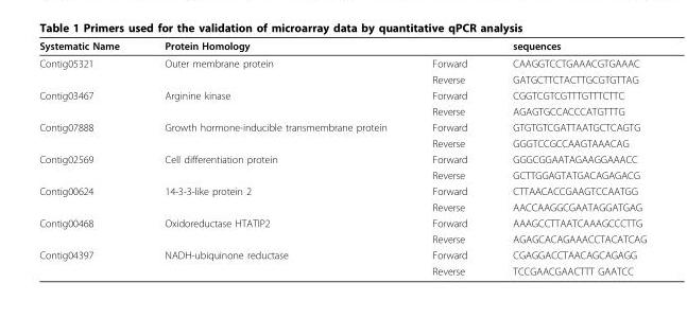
<table><thead><tr><td>Systematic Name</td><td>Protein Homology</td><td></td><td>sequences</td></tr></thead><tbody><tr><td rowspan="2">Contig05321</td><td>Outer membrane protein</td><td>Forward</td><td>CAAGGTCCTGAAACGTGAAAC</td></tr><tr><td></td><td>Reverse</td><td>GATGCTTCTACTTGCGTGTTAG</td></tr><tr><td rowspan="2">Contig03467</td><td>Arginine kinase</td><td>Forward</td><td>CGGTCGTCGTTTGTTTCTTC</td></tr><tr><td></td><td>Reverse</td><td>AGAGTGCCACCCATGTTTG</td></tr><tr><td rowspan="2">Contig07888</td><td>Growth hormone-inducible transmembrane protein</td><td>Forward</td><td>GTGTGTCGATTAATGCTCAGTG</td></tr><tr><td></td><td>Reverse</td><td>GGGTCCGCCAAGTAAACAG</td></tr><tr><td rowspan="2">Contig02569</td><td>Cell differentiation protein</td><td>Forward</td><td>GGGCGGAATAGAAGGAAACC</td></tr><tr><td></td><td>Reverse</td><td>GCTTGGAGTATGACAGAGACG</td></tr><tr><td rowspan="2">Contig00624</td><td>14-3-3-like protein 2</td><td>Forward</td><td>CTTAACACCGAAGTCCAATGG</td></tr><tr><td></td><td>Reverse</td><td>AACCAAGGCGAATAGGATGAG</td></tr><tr><td rowspan="2">Contig00468</td><td>Oxidoreductase HTATIP2</td><td>Forward</td><td>AAAGCCTTAATCAAAGCCCTTG</td></tr><tr><td></td><td>Reverse</td><td>AGAGCACAGAAACCTACATCAG</td></tr><tr><td rowspan="2">Contig04397</td><td>NADH-ubiquinone reductase</td><td>Forward</td><td>CGAGGACCTAACAGCAGAGG</td></tr><tr><td></td><td>Reverse</td><td>TCCGAACGAACTTT GAATCC</td></tr></tbody></table>